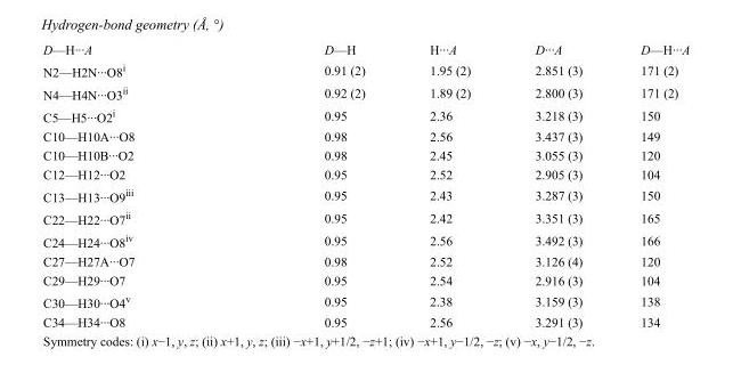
<table><tbody><tr><td>D—H···A</td><td>D—H</td><td>H···A</td><td>D···A</td><td>D—H···A</td></tr><tr><td>N2—H2N···O8<sup>i</sup></td><td>0.91 (2)</td><td>1.95 (2)</td><td>2.851 (3)</td><td>171 (2)</td></tr><tr><td>N4—H4N···O3<sup>ii</sup></td><td>0.92 (2)</td><td>1.89 (2)</td><td>2.800 (3)</td><td>171 (2)</td></tr><tr><td>C5—H5···O2<sup>i</sup></td><td>0.95</td><td>2.36</td><td>3.218 (3)</td><td>150</td></tr><tr><td>C10—H10A···O8</td><td>0.98</td><td>2.56</td><td>3.437 (3)</td><td>149</td></tr><tr><td>C10—H10B···O2</td><td>0.98</td><td>2.45</td><td>3.055 (3)</td><td>120</td></tr><tr><td>C12—H12···O2</td><td>0.95</td><td>2.52</td><td>2.905 (3)</td><td>104</td></tr><tr><td>C13—H13···O9<sup>iii</sup></td><td>0.95</td><td>2.43</td><td>3.287 (3)</td><td>150</td></tr><tr><td>C22—H22···O7<sup>ii</sup></td><td>0.95</td><td>2.42</td><td>3.351 (3)</td><td>165</td></tr><tr><td>C24—H24···O8<sup>iv</sup></td><td>0.95</td><td>2.56</td><td>3.492 (3)</td><td>166</td></tr><tr><td>C27—H27A···O7</td><td>0.98</td><td>2.52</td><td>3.126 (4)</td><td>120</td></tr><tr><td>C29—H29···O7</td><td>0.95</td><td>2.54</td><td>2.916 (3)</td><td>104</td></tr><tr><td>C30—H30···O4<sup>v</sup></td><td>0.95</td><td>2.38</td><td>3.159 (3)</td><td>138</td></tr><tr><td>C34—H34···O8</td><td>0.95</td><td>2.56</td><td>3.291 (3)</td><td>134</td></tr></tbody></table>